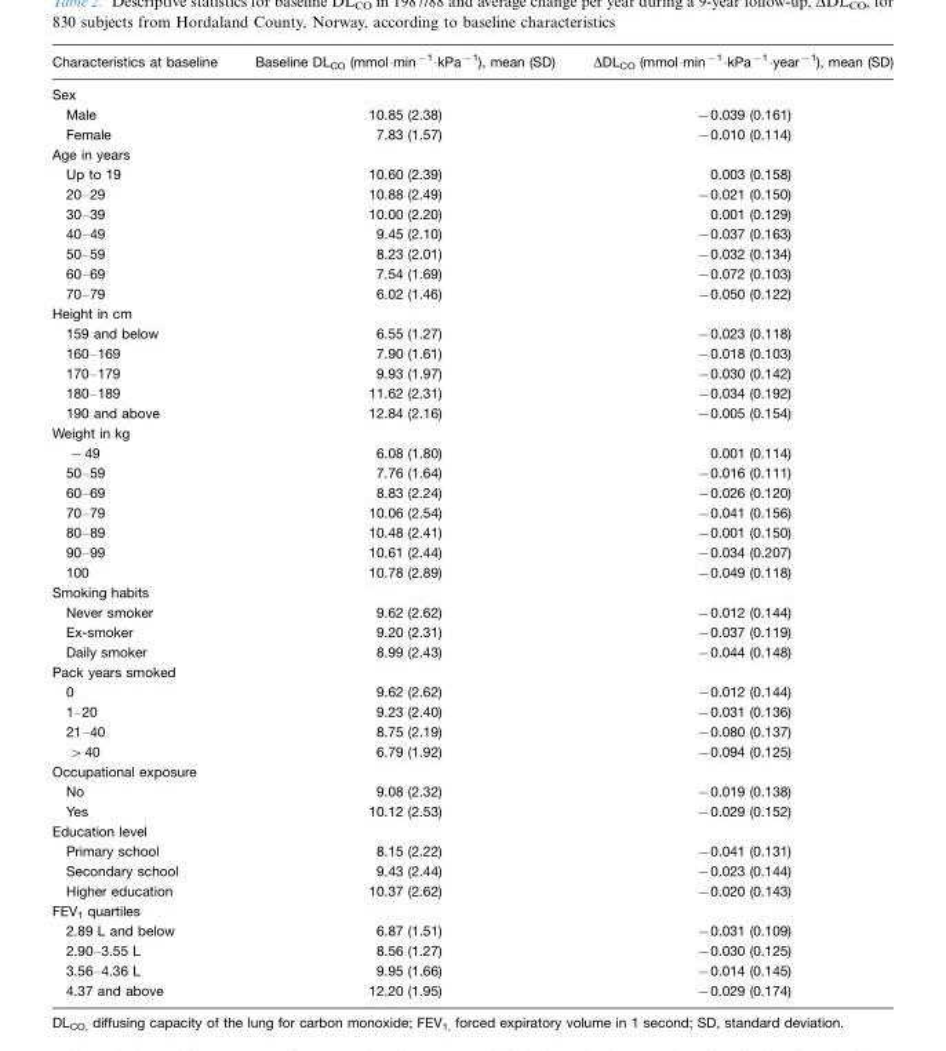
<table><thead><tr><td>Characteristics at baseline</td><td>Baseline DL<sub>CO</sub> (mmol·min<sup>−1</sup>·kPa<sup>−1</sup>), mean (SD)</td><td>ΔDL<sub>CO</sub> (mmol·min<sup>−1</sup>·kPa<sup>−1</sup>·year<sup>−1</sup>), mean (SD)</td></tr></thead><tbody><tr><td colspan="3">Sex</td></tr><tr><td>Male</td><td>10.85 (2.38)</td><td>−0.039 (0.161)</td></tr><tr><td>Female</td><td>7.83 (1.57)</td><td>−0.010 (0.114)</td></tr><tr><td colspan="3">Age in years</td></tr><tr><td>Up to 19</td><td>10.60 (2.39)</td><td>0.003 (0.158)</td></tr><tr><td>20–29</td><td>10.88 (2.49)</td><td>−0.021 (0.150)</td></tr><tr><td>30–39</td><td>10.00 (2.20)</td><td>0.001 (0.129)</td></tr><tr><td>40–49</td><td>9.45 (2.10)</td><td>−0.037 (0.163)</td></tr><tr><td>50–59</td><td>8.23 (2.01)</td><td>−0.032 (0.134)</td></tr><tr><td>60–69</td><td>7.54 (1.69)</td><td>−0.072 (0.103)</td></tr><tr><td>70–79</td><td>6.02 (1.46)</td><td>−0.050 (0.122)</td></tr><tr><td colspan="3">Height in cm</td></tr><tr><td>159 and below</td><td>6.55 (1.27)</td><td>−0.023 (0.118)</td></tr><tr><td>160–169</td><td>7.90 (1.61)</td><td>−0.018 (0.103)</td></tr><tr><td>170–179</td><td>9.93 (1.97)</td><td>−0.030 (0.142)</td></tr><tr><td>180–189</td><td>11.62 (2.31)</td><td>−0.034 (0.192)</td></tr><tr><td>190 and above</td><td>12.84 (2.16)</td><td>−0.005 (0.154)</td></tr><tr><td colspan="3">Weight in kg</td></tr><tr><td>−49</td><td>6.08 (1.80)</td><td>0.001 (0.114)</td></tr><tr><td>50–59</td><td>7.76 (1.64)</td><td>−0.016 (0.111)</td></tr><tr><td>60–69</td><td>8.83 (2.24)</td><td>−0.026 (0.120)</td></tr><tr><td>70–79</td><td>10.06 (2.54)</td><td>−0.041 (0.156)</td></tr><tr><td>80–89</td><td>10.48 (2.41)</td><td>−0.001 (0.150)</td></tr><tr><td>90–99</td><td>10.61 (2.44)</td><td>−0.034 (0.207)</td></tr><tr><td>100</td><td>10.78 (2.89)</td><td>−0.049 (0.118)</td></tr><tr><td colspan="3">Smoking habits</td></tr><tr><td>Never smoker</td><td>9.62 (2.62)</td><td>−0.012 (0.144)</td></tr><tr><td>Ex-smoker</td><td>9.20 (2.31)</td><td>−0.037 (0.119)</td></tr><tr><td>Daily smoker</td><td>8.99 (2.43)</td><td>−0.044 (0.148)</td></tr><tr><td colspan="3">Pack years smoked</td></tr><tr><td>0</td><td>9.62 (2.62)</td><td>−0.012 (0.144)</td></tr><tr><td>1–20</td><td>9.23 (2.40)</td><td>−0.031 (0.136)</td></tr><tr><td>21–40</td><td>8.75 (2.19)</td><td>−0.080 (0.137)</td></tr><tr><td>&gt;40</td><td>6.79 (1.92)</td><td>−0.094 (0.125)</td></tr><tr><td colspan="3">Occupational exposure</td></tr><tr><td>No</td><td>9.08 (2.32)</td><td>−0.019 (0.138)</td></tr><tr><td>Yes</td><td>10.12 (2.53)</td><td>−0.029 (0.152)</td></tr><tr><td colspan="3">Education level</td></tr><tr><td>Primary school</td><td>8.15 (2.22)</td><td>−0.041 (0.131)</td></tr><tr><td>Secondary school</td><td>9.43 (2.44)</td><td>−0.023 (0.144)</td></tr><tr><td>Higher education</td><td>10.37 (2.62)</td><td>−0.020 (0.143)</td></tr><tr><td colspan="3">FEV<sub>1</sub> quartiles</td></tr><tr><td>2.89 L and below</td><td>6.87 (1.51)</td><td>−0.031 (0.109)</td></tr><tr><td>2.90–3.55 L</td><td>8.56 (1.27)</td><td>−0.030 (0.125)</td></tr><tr><td>3.56–4.36 L</td><td>9.95 (1.66)</td><td>−0.014 (0.145)</td></tr><tr><td>4.37 and above</td><td>12.20 (1.95)</td><td>−0.029 (0.174)</td></tr></tbody></table>